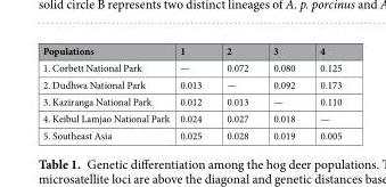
<table><thead><tr><td>Populations</td><td>1</td><td>2</td><td>3</td><td>4</td></tr></thead><tbody><tr><td>1. Corbett National Park</td><td>—</td><td>0.072</td><td>0.080</td><td>0.125</td></tr><tr><td>2. Dudhwa National Park</td><td>0.013</td><td>—</td><td>0.092</td><td>0.173</td></tr><tr><td>3. Kaziranga National Park</td><td>0.012</td><td>0.013</td><td>—</td><td>0.110</td></tr><tr><td>4. Keibul Lamjao National Park</td><td>0.024</td><td>0.027</td><td>0.018</td><td>—</td></tr><tr><td>5. Southeast Asia</td><td>0.025</td><td>0.028</td><td>0.019</td><td>0.005</td></tr></tbody></table>